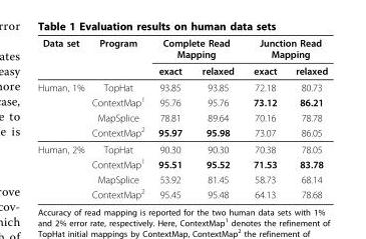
<table><thead><tr><td rowspan="2">Data set</td><td rowspan="2">Program</td><td colspan="2">Complete Read Mapping</td><td colspan="2">Junction Read Mapping</td></tr><tr><td>exact</td><td>relaxed</td><td>exact</td><td>relaxed</td></tr></thead><tbody><tr><td rowspan="4">Human, 1%</td><td>TopHat</td><td>93.85</td><td>93.85</td><td>72.18</td><td>80.73</td></tr><tr><td>ContextMap<sup>1</sup></td><td>95.76</td><td>95.76</td><td>73.12</td><td>86.21</td></tr><tr><td>MapSplice</td><td>78.81</td><td>89.64</td><td>70.16</td><td>78.78</td></tr><tr><td>ContextMap<sup>2</sup></td><td>95.97</td><td>95.98</td><td>73.07</td><td>86.05</td></tr><tr><td rowspan="4">Human, 2%</td><td>TopHat</td><td>90.30</td><td>90.30</td><td>70.38</td><td>78.05</td></tr><tr><td>ContextMap<sup>1</sup></td><td>95.51</td><td>95.52</td><td>71.53</td><td>83.78</td></tr><tr><td>MapSplice</td><td>53.92</td><td>81.45</td><td>58.73</td><td>68.14</td></tr><tr><td>ContextMap<sup>2</sup></td><td>95.45</td><td>95.48</td><td>64.13</td><td>78.68</td></tr></tbody></table>